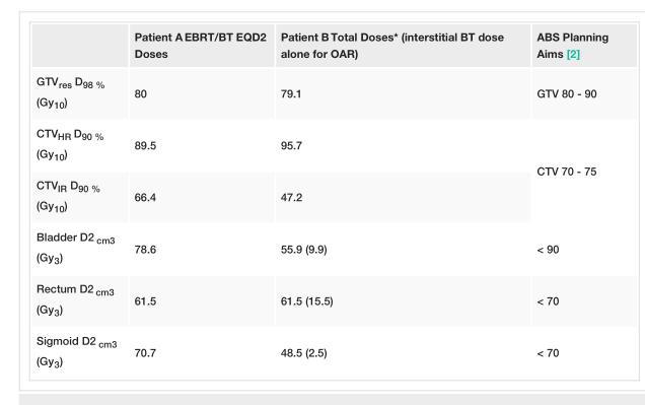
<table><thead><tr><td></td><td>Patient A EBRT/BT EQD2 Doses</td><td>Patient B Total Doses* (interstitial BT dose alone for OAR)</td><td>ABS Planning Aims [2]</td></tr></thead><tbody><tr><td>GTV<sub>res</sub> D<sub>98 %</sub> (Gy<sub>10</sub>)</td><td>80</td><td>79.1</td><td>GTV 80 - 90</td></tr><tr><td>CTV<sub>HR</sub> D<sub>90 %</sub> (Gy<sub>10</sub>)</td><td>89.5</td><td>95.7</td><td rowspan="2">CTV 70 - 75</td></tr><tr><td>CTV<sub>IR</sub> D<sub>90 %</sub> (Gy<sub>10</sub>)</td><td>66.4</td><td>47.2</td></tr><tr><td>Bladder D2 <sub>cm3</sub> (Gy<sub>3</sub>)</td><td>78.6</td><td>55.9 (9.9)</td><td>&lt; 90</td></tr><tr><td>Rectum D2 <sub>cm3</sub> (Gy<sub>3</sub>)</td><td>61.5</td><td>61.5 (15.5)</td><td>&lt; 70</td></tr><tr><td>Sigmoid D2 <sub>cm3</sub> (Gy<sub>3</sub>)</td><td>70.7</td><td>48.5 (2.5)</td><td>&lt; 70</td></tr></tbody></table>